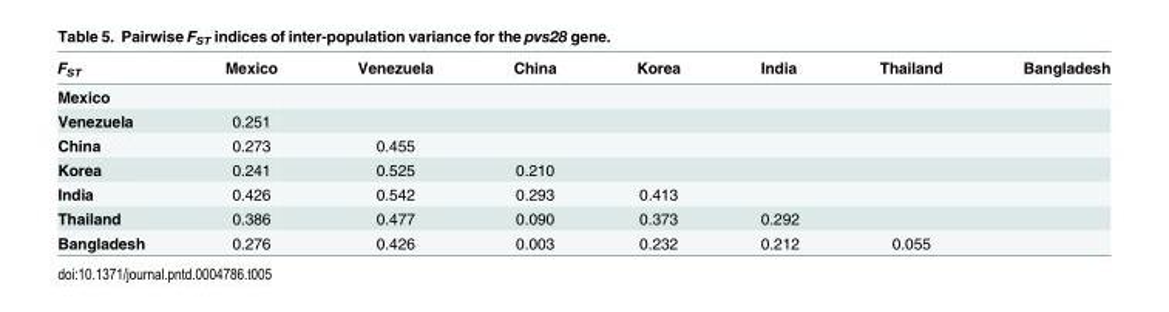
<table><thead><tr><td>F<sub>ST</sub></td><td>Mexico</td><td>Venezuela</td><td>China</td><td>Korea</td><td>India</td><td>Thailand</td><td>Bangladesh</td></tr></thead><tbody><tr><td colspan="8">Mexico</td></tr><tr><td>Venezuela</td><td>0.251</td><td></td><td></td><td></td><td></td><td></td><td></td></tr><tr><td>China</td><td>0.273</td><td>0.455</td><td></td><td></td><td></td><td></td><td></td></tr><tr><td>Korea</td><td>0.241</td><td>0.525</td><td>0.210</td><td></td><td></td><td></td><td></td></tr><tr><td>India</td><td>0.426</td><td>0.542</td><td>0.293</td><td>0.413</td><td></td><td></td><td></td></tr><tr><td>Thailand</td><td>0.386</td><td>0.477</td><td>0.090</td><td>0.373</td><td>0.292</td><td></td><td></td></tr><tr><td>Bangladesh</td><td>0.276</td><td>0.426</td><td>0.003</td><td>0.232</td><td>0.212</td><td>0.055</td><td></td></tr></tbody></table>